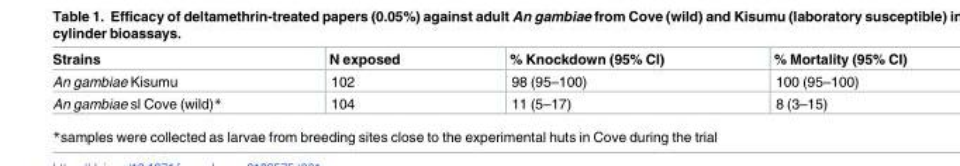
<table><thead><tr><td>Strains</td><td>N exposed</td><td>% Knockdown (95% CI)</td><td>% Mortality (95% CI)</td></tr></thead><tbody><tr><td>An gambiae Kisumu</td><td>102</td><td>98 (95–100)</td><td>100 (95–100)</td></tr><tr><td>An gambiae sl Cove (wild)*</td><td>104</td><td>11 (5–17)</td><td>8 (3–15)</td></tr></tbody></table>